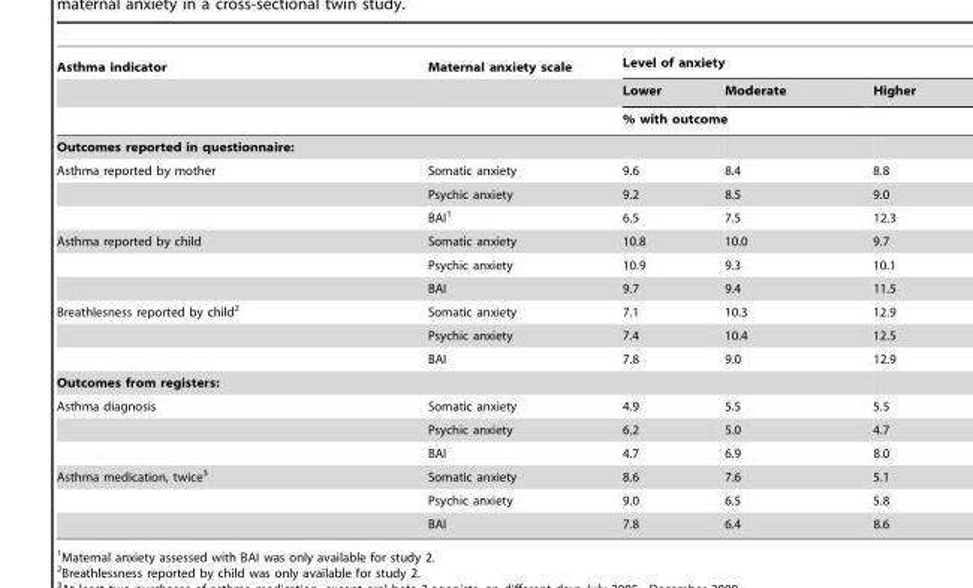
<table><thead><tr><td rowspan="3">Asthma indicator</td><td rowspan="3">Maternal anxiety scale</td><td colspan="3">Level of anxiety</td></tr><tr><td>Lower</td><td>Moderate</td><td>Higher</td></tr><tr><td colspan="3">% with outcome</td></tr></thead><tbody><tr><td colspan="5">Outcomes reported in questionnaire:</td></tr><tr><td rowspan="3">Asthma reported by mother</td><td>Somatic anxiety</td><td>9.6</td><td>8.4</td><td>8.8</td></tr><tr><td>Psychic anxiety</td><td>9.2</td><td>8.5</td><td>9.0</td></tr><tr><td>BAI<sup>1</sup></td><td>6.5</td><td>7.5</td><td>12.3</td></tr><tr><td rowspan="3">Asthma reported by child</td><td>Somatic anxiety</td><td>10.8</td><td>10.0</td><td>9.7</td></tr><tr><td>Psychic anxiety</td><td>10.9</td><td>9.3</td><td>10.1</td></tr><tr><td>BAI</td><td>9.7</td><td>9.4</td><td>11.5</td></tr><tr><td rowspan="3">Breathlesness reported by child<sup>2</sup></td><td>Somatic anxiety</td><td>7.1</td><td>10.3</td><td>12.9</td></tr><tr><td>Psychic anxiety</td><td>7.4</td><td>10.4</td><td>12.5</td></tr><tr><td>BAI</td><td>7.8</td><td>9.0</td><td>12.9</td></tr><tr><td colspan="5">Outcomes from registers:</td></tr><tr><td rowspan="3">Asthma diagnosis</td><td>Somatic anxiety</td><td>4.9</td><td>5.5</td><td>5.5</td></tr><tr><td>Psychic anxiety</td><td>6.2</td><td>5.0</td><td>4.7</td></tr><tr><td>BAI</td><td>4.7</td><td>6.9</td><td>8.0</td></tr><tr><td rowspan="3">Asthma medication, twice<sup>3</sup></td><td>Somatic anxiety</td><td>8.6</td><td>7.6</td><td>5.1</td></tr><tr><td>Psychic anxiety</td><td>9.0</td><td>6.5</td><td>5.8</td></tr><tr><td>BAI</td><td>7.8</td><td>6.4</td><td>8.6</td></tr></tbody></table>